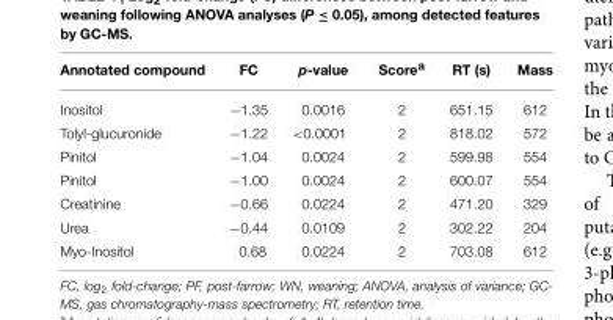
<table><thead><tr><td>Annotated compound</td><td>FC</td><td>p-value</td><td>Score<sup>a</sup></td><td>RT (s)</td><td>Mass</td></tr></thead><tbody><tr><td>Inositol</td><td>−1.35</td><td>0.0016</td><td>2</td><td>651.15</td><td>612</td></tr><tr><td>Tolyl-glucuronide</td><td>−1.22</td><td>&lt;0.0001</td><td>2</td><td>818.02</td><td>572</td></tr><tr><td>Pinitol</td><td>−1.04</td><td>0.0024</td><td>2</td><td>599.98</td><td>554</td></tr><tr><td>Pinitol</td><td>−1.00</td><td>0.0024</td><td>2</td><td>600.07</td><td>554</td></tr><tr><td>Creatinine</td><td>−0.66</td><td>0.0224</td><td>2</td><td>471.20</td><td>329</td></tr><tr><td>Urea</td><td>−0.44</td><td>0.0109</td><td>2</td><td>302.22</td><td>204</td></tr><tr><td>Myo-Inositol</td><td>0.68</td><td>0.0224</td><td>2</td><td>703.08</td><td>612</td></tr></tbody></table>